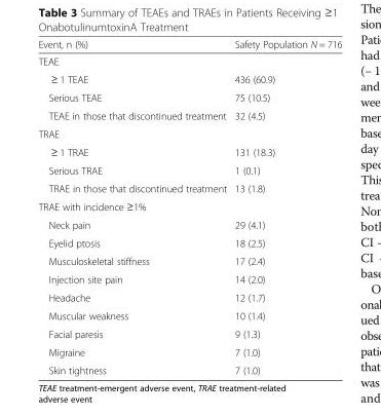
<table><thead><tr><td>Event, n (%)</td><td>Safety Population N = 716</td></tr></thead><tbody><tr><td colspan="2">TEAE</td></tr><tr><td>≥ 1 TEAE</td><td>436 (60.9)</td></tr><tr><td>Serious TEAE</td><td>75 (10.5)</td></tr><tr><td>TEAE in those that discontinued treatment</td><td>32 (4.5)</td></tr><tr><td colspan="2">TRAE</td></tr><tr><td>≥ 1 TRAE</td><td>131 (18.3)</td></tr><tr><td>Serious TRAE</td><td>1 (0.1)</td></tr><tr><td>TRAE in those that discontinued treatment</td><td>13 (1.8)</td></tr><tr><td colspan="2">TRAE with incidence ≥1%</td></tr><tr><td>Neck pain</td><td>29 (4.1)</td></tr><tr><td>Eyelid ptosis</td><td>18 (2.5)</td></tr><tr><td>Musculoskeletal stiffness</td><td>17 (2.4)</td></tr><tr><td>Injection site pain</td><td>14 (2.0)</td></tr><tr><td>Headache</td><td>12 (1.7)</td></tr><tr><td>Muscular weakness</td><td>10 (1.4)</td></tr><tr><td>Facial paresis</td><td>9 (1.3)</td></tr><tr><td>Migraine</td><td>7 (1.0)</td></tr><tr><td>Skin tightness</td><td>7 (1.0)</td></tr></tbody></table>